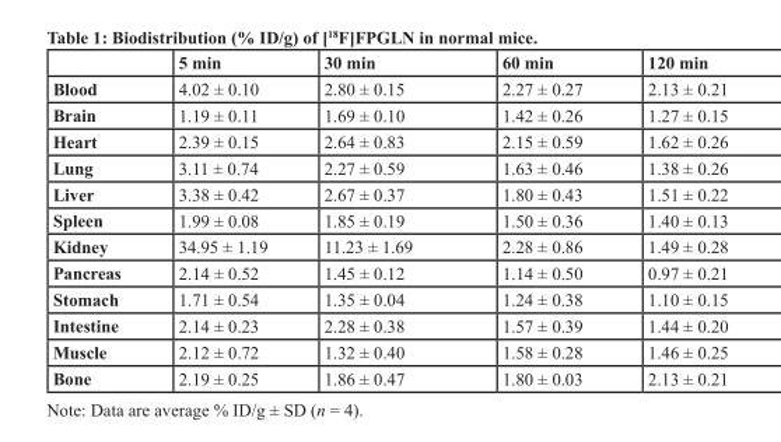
<table><thead><tr><td></td><td>5 min</td><td>30 min</td><td>60 min</td><td>120 min</td></tr></thead><tbody><tr><td>blood</td><td>4.02 ± 0.10</td><td>2.80 ± 0.15</td><td>2.27 ± 0.27</td><td>2.13 ± 0.21</td></tr><tr><td>brain</td><td>1.19 ± 0.11</td><td>1.69 ± 0.10</td><td>1.42 ± 0.26</td><td>1.27 ± 0.15</td></tr><tr><td>Heart</td><td>2.39 ± 0.15</td><td>2.64 ± 0.83</td><td>2.15 ± 0.59</td><td>1.62 ± 0.26</td></tr><tr><td>Lung</td><td>3.11 ± 0.74</td><td>2.27 ± 0.59</td><td>1.63 ± 0.46</td><td>1.38 ± 0.26</td></tr><tr><td>Liver</td><td>3.38 ± 0.42</td><td>2.67 ± 0.37</td><td>1.80 ± 0.43</td><td>1.51 ± 0.22</td></tr><tr><td>spleen</td><td>1.99 ± 0.08</td><td>1.85 ± 0.19</td><td>1.50 ± 0.36</td><td>1.40 ± 0.13</td></tr><tr><td>Kidney</td><td>34.95 ± 1.19</td><td>11.23 ± 1.69</td><td>2.28 ± 0.86</td><td>1.49 ± 0.28</td></tr><tr><td>Pancreas</td><td>2.14 ± 0.52</td><td>1.45 ± 0.12</td><td>1.14 ± 0.50</td><td>0.97 ± 0.21</td></tr><tr><td>stomach</td><td>1.71 ± 0.54</td><td>1.35 ± 0.04</td><td>1.24 ± 0.38</td><td>1.10 ± 0.15</td></tr><tr><td>Intestine</td><td>2.14 ± 0.23</td><td>2.28 ± 0.38</td><td>1.57 ± 0.39</td><td>1.44 ± 0.20</td></tr><tr><td>Muscle</td><td>2.12 ± 0.72</td><td>1.32 ± 0.40</td><td>1.58 ± 0.28</td><td>1.46 ± 0.25</td></tr><tr><td>bone</td><td>2.19 ± 0.25</td><td>1.86 ± 0.47</td><td>1.80 ± 0.03</td><td>2.13 ± 0.21</td></tr></tbody></table>